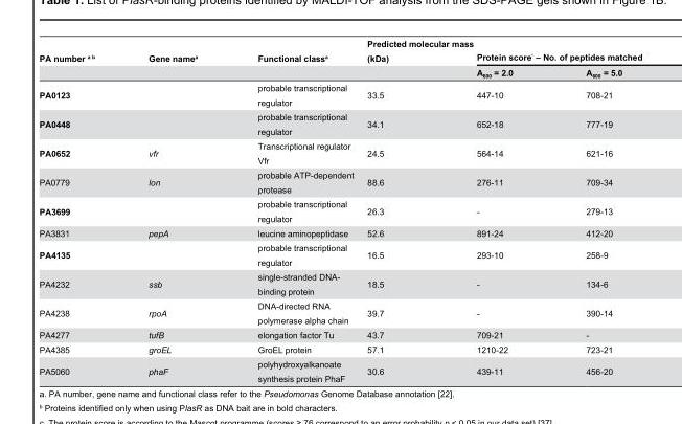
<table><thead><tr><td rowspan="2">PA number <sup>a b</sup></td><td rowspan="2">Gene name<sup>a</sup></td><td rowspan="2">Functional class<sup>a</sup></td><td rowspan="2">Predicted molecular mass (kDa)</td><td colspan="2">Protein score <sup>c</sup> – No. of peptides matched</td></tr><tr><td>A<sub>600</sub> = 2.0</td><td>A<sub>600</sub> = 5.0</td></tr></thead><tbody><tr><td>PA0123</td><td></td><td>probable transcriptional regulator</td><td>33.5</td><td>447-10</td><td>708-21</td></tr><tr><td>PA0448</td><td></td><td>probable transcriptional regulator</td><td>34.1</td><td>652-18</td><td>777-19</td></tr><tr><td>PA0652</td><td>vfr</td><td>Transcriptional regulator Vfr</td><td>24.5</td><td>564-14</td><td>621-16</td></tr><tr><td>PA0779</td><td>lon</td><td>probable ATP-dependent protease</td><td>88.6</td><td>276-11</td><td>709-34</td></tr><tr><td>PA3699</td><td></td><td>probable transcriptional regulator</td><td>26.3</td><td>-</td><td>279-13</td></tr><tr><td>PA3831</td><td>pepA</td><td>leucine aminopeptidase</td><td>52.6</td><td>891-24</td><td>412-20</td></tr><tr><td>PA4135</td><td></td><td>probable transcriptional regulator</td><td>16.5</td><td>293-10</td><td>258-9</td></tr><tr><td>PA4232</td><td>ssb</td><td>single-stranded DNA- binding protein</td><td>18.5</td><td>-</td><td>134-6</td></tr><tr><td>PA4238</td><td>rpoA</td><td>DNA-directed RNA polymerase alpha chain</td><td>39.7</td><td>-</td><td>390-14</td></tr><tr><td>PA4277</td><td>tufB</td><td>elongation factor Tu</td><td>43.7</td><td>709-21</td><td>-</td></tr><tr><td>PA4385</td><td>groEL</td><td>GroEL protein</td><td>57.1</td><td>1210-22</td><td>723-21</td></tr><tr><td>PA5060</td><td>phaF</td><td>polyhydroxyalkanoate synthesis protein PhaF</td><td>30.6</td><td>439-11</td><td>456-20</td></tr></tbody></table>